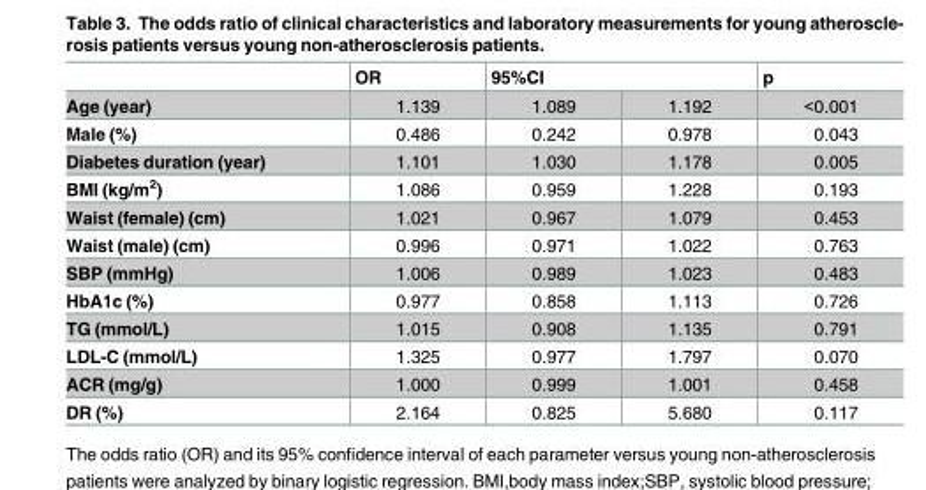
<table><thead><tr><td rowspan="2">Age (year)</td><td rowspan="2">OR 1.139</td><td colspan="2">95%CI</td><td rowspan="2">p &lt;0.001</td></tr><tr><td>1.089</td><td>1.192</td></tr></thead><tbody><tr><td>Male (%)</td><td>0.486</td><td>0.242</td><td>0.978</td><td>0.043</td></tr><tr><td>Diabetes duration (year)</td><td>1.101</td><td>1.030</td><td>1.178</td><td>0.005</td></tr><tr><td>BMI (kg/m<sup>2</sup>)</td><td>1.086</td><td>0.959</td><td>1.228</td><td>0.193</td></tr><tr><td>Waist (female) (cm)</td><td>1.021</td><td>0.967</td><td>1.079</td><td>0.453</td></tr><tr><td>Waist (male) (cm)</td><td>0.996</td><td>0.971</td><td>1.022</td><td>0.763</td></tr><tr><td>SBP (mmHg)</td><td>1.006</td><td>0.989</td><td>1.023</td><td>0.483</td></tr><tr><td>HbA1c (%)</td><td>0.977</td><td>0.858</td><td>1.113</td><td>0.726</td></tr><tr><td>TG (mmol/L)</td><td>1.015</td><td>0.908</td><td>1.135</td><td>0.791</td></tr><tr><td>LDL-C (mmol/L)</td><td>1.325</td><td>0.977</td><td>1.797</td><td>0.070</td></tr><tr><td>ACR (mg/g)</td><td>1.000</td><td>0.999</td><td>1.001</td><td>0.458</td></tr><tr><td>DR (%)</td><td>2.164</td><td>0.825</td><td>5.680</td><td>0.117</td></tr></tbody></table>